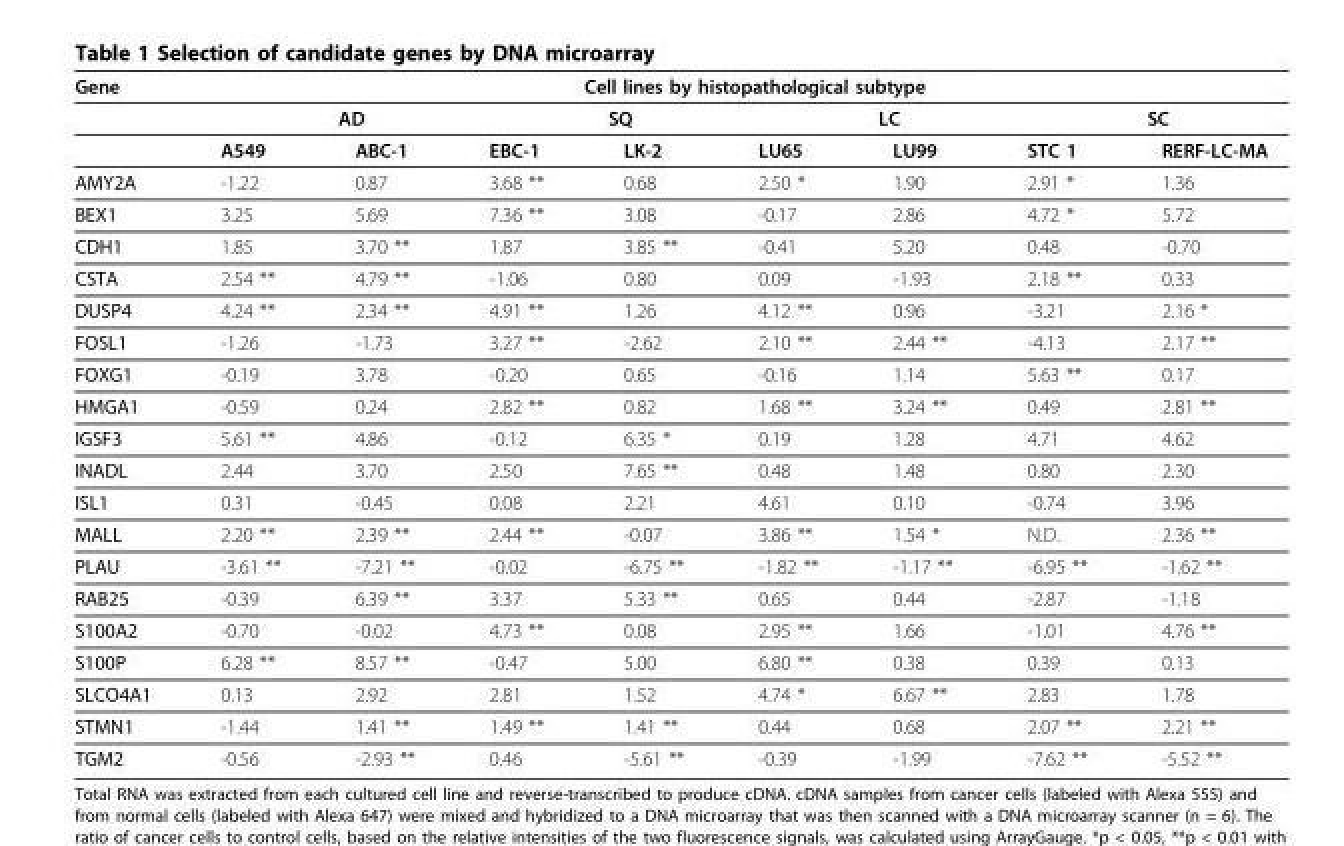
<table><thead><tr><td rowspan="3">Gene</td><td colspan="8">Cell lines by histopathological subtype</td></tr><tr><td colspan="2">AD</td><td colspan="2">SQ</td><td colspan="2">LC</td><td colspan="2">SC</td></tr><tr><td>A549</td><td>ABC-1</td><td>EBC-1</td><td>LK-2</td><td>LU65</td><td>LU99</td><td>STC 1</td><td>RERF-LC-MA</td></tr></thead><tbody><tr><td>AMY2A</td><td>-1.22</td><td>0.87</td><td>3.68 **</td><td>0.68</td><td>2.50 *</td><td>1.90</td><td>2.91 *</td><td>1.36</td></tr><tr><td>BEX1</td><td>3.25</td><td>5.69</td><td>7.36 **</td><td>3.08</td><td>-0.17</td><td>2.86</td><td>4.72 *</td><td>5.72</td></tr><tr><td>CDH1</td><td>1.85</td><td>3.70 **</td><td>1.87</td><td>3.85 **</td><td>-0.41</td><td>5.20</td><td>0.48</td><td>-0.70</td></tr><tr><td>CSTA</td><td>2.54 **</td><td>4.79 **</td><td>-1.06</td><td>0.80</td><td>0.09</td><td>-1.93</td><td>2.18 **</td><td>0.33</td></tr><tr><td>DUSP4</td><td>4.24 **</td><td>2.34 **</td><td>4.91 **</td><td>1.26</td><td>4.12 **</td><td>0.96</td><td>-3.21</td><td>2.16 *</td></tr><tr><td>FOSL1</td><td>-1.26</td><td>-1.73</td><td>3.27 **</td><td>-2.62</td><td>2.10 **</td><td>2.44 **</td><td>-4.13</td><td>2.17 **</td></tr><tr><td>FOXG1</td><td>-0.19</td><td>3.78</td><td>-0.20</td><td>0.65</td><td>-0.16</td><td>1.14</td><td>5.63 **</td><td>0.17</td></tr><tr><td>HMGA1</td><td>-0.59</td><td>0.24</td><td>2.82 **</td><td>0.82</td><td>1.68 **</td><td>3.24 **</td><td>0.49</td><td>2.81 **</td></tr><tr><td>IGSF3</td><td>5.61 **</td><td>4.86</td><td>-0.12</td><td>6.35 *</td><td>0.19</td><td>1.28</td><td>4.71</td><td>4.62</td></tr><tr><td>INADL</td><td>2.44</td><td>3.70</td><td>2.50</td><td>7.65 **</td><td>0.48</td><td>1.48</td><td>0.80</td><td>2.30</td></tr><tr><td>ISL1</td><td>0.31</td><td>-0.45</td><td>0.08</td><td>2.21</td><td>4.61</td><td>0.10</td><td>-0.74</td><td>3.96</td></tr><tr><td>MALL</td><td>2.20 **</td><td>2.39 **</td><td>2.44 **</td><td>-0.07</td><td>3.86 **</td><td>1.54 *</td><td>N.D.</td><td>2.36 **</td></tr><tr><td>PLAU</td><td>-3.61 **</td><td>-7.21 **</td><td>-0.02</td><td>-6.75 **</td><td>-1.82 **</td><td>-1.17 **</td><td>-6.95 **</td><td>-1.62 **</td></tr><tr><td>RAB25</td><td>-0.39</td><td>6.39 **</td><td>3.37</td><td>5.33 **</td><td>0.65</td><td>0.44</td><td>-2.87</td><td>-1.18</td></tr><tr><td>S100A2</td><td>-0.70</td><td>-0.02</td><td>4.73 **</td><td>0.08</td><td>2.95 **</td><td>1.66</td><td>-1.01</td><td>4.76 **</td></tr><tr><td>S100P</td><td>6.28 **</td><td>8.57 **</td><td>-0.47</td><td>5.00</td><td>6.80 **</td><td>0.38</td><td>0.39</td><td>0.13</td></tr><tr><td>SLCO4A1</td><td>0.13</td><td>2.92</td><td>2.81</td><td>1.52</td><td>4.74 *</td><td>6.67 **</td><td>2.83</td><td>1.78</td></tr><tr><td>STMN1</td><td>-1.44</td><td>1.41 **</td><td>1.49 **</td><td>1.41 **</td><td>0.44</td><td>0.68</td><td>2.07 **</td><td>2.21 **</td></tr><tr><td>TGM2</td><td>-0.56</td><td>-2.93 **</td><td>0.46</td><td>-5.61 **</td><td>-0.39</td><td>-1.99</td><td>-7.62 **</td><td>-5.52 **</td></tr></tbody></table>